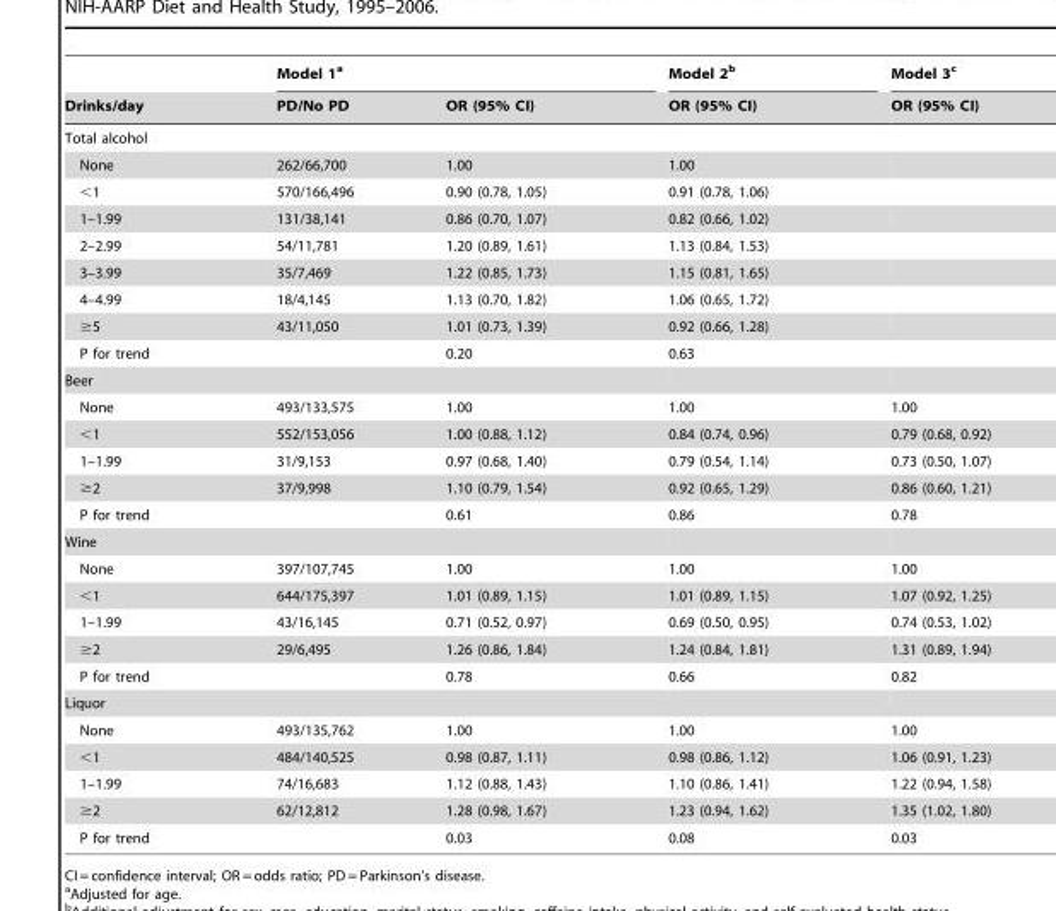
<table><thead><tr><td rowspan="2">Drinks/day</td><td colspan="2">Model 1<sup>a</sup></td><td rowspan="2">Model 2<sup>b</sup> OR (95% CI)</td><td rowspan="2">Model 3<sup>c</sup> OR (95% CI)</td></tr><tr><td>PD/No PD</td><td>OR (95% CI)</td></tr></thead><tbody><tr><td colspan="5">Total alcohol</td></tr><tr><td>None</td><td>262/66,700</td><td>1.00</td><td>1.00</td><td></td></tr><tr><td>&lt;1</td><td>570/166,496</td><td>0.90 (0.78, 1.05)</td><td>0.91 (0.78, 1.06)</td><td></td></tr><tr><td>1–1.99</td><td>131/38,141</td><td>0.86 (0.70, 1.07)</td><td>0.82 (0.66, 1.02)</td><td></td></tr><tr><td>2–2.99</td><td>54/11,781</td><td>1.20 (0.89, 1.61)</td><td>1.13 (0.84, 1.53)</td><td></td></tr><tr><td>3–3.99</td><td>35/7,469</td><td>1.22 (0.85, 1.73)</td><td>1.15 (0.81, 1.65)</td><td></td></tr><tr><td>4–4.99</td><td>18/4,145</td><td>1.13 (0.70, 1.82)</td><td>1.06 (0.65, 1.72)</td><td></td></tr><tr><td>≥5</td><td>43/11,050</td><td>1.01 (0.73, 1.39)</td><td>0.92 (0.66, 1.28)</td><td></td></tr><tr><td>P for trend</td><td></td><td>0.20</td><td>0.63</td><td></td></tr><tr><td colspan="5">Beer</td></tr><tr><td>None</td><td>493/133,575</td><td>1.00</td><td>1.00</td><td>1.00</td></tr><tr><td>&lt;1</td><td>552/153,056</td><td>1.00 (0.88, 1.12)</td><td>0.84 (0.74, 0.96)</td><td>0.79 (0.68, 0.92)</td></tr><tr><td>1–1.99</td><td>31/9,153</td><td>0.97 (0.68, 1.40)</td><td>0.79 (0.54, 1.14)</td><td>0.73 (0.50, 1.07)</td></tr><tr><td>≥2</td><td>37/9,998</td><td>1.10 (0.79, 1.54)</td><td>0.92 (0.65, 1.29)</td><td>0.86 (0.60, 1.21)</td></tr><tr><td>P for trend</td><td></td><td>0.61</td><td>0.86</td><td>0.78</td></tr><tr><td colspan="5">Wine</td></tr><tr><td>None</td><td>397/107,745</td><td>1.00</td><td>1.00</td><td>1.00</td></tr><tr><td>&lt;1</td><td>644/175,397</td><td>1.01 (0.89, 1.15)</td><td>1.01 (0.89, 1.15)</td><td>1.07 (0.92, 1.25)</td></tr><tr><td>1–1.99</td><td>43/16,145</td><td>0.71 (0.52, 0.97)</td><td>0.69 (0.50, 0.95)</td><td>0.74 (0.53, 1.02)</td></tr><tr><td>≥2</td><td>29/6,495</td><td>1.26 (0.86, 1.84)</td><td>1.24 (0.84, 1.81)</td><td>1.31 (0.89, 1.94)</td></tr><tr><td>P for trend</td><td></td><td>0.78</td><td>0.66</td><td>0.82</td></tr><tr><td colspan="5">Liquor</td></tr><tr><td>None</td><td>493/135,762</td><td>1.00</td><td>1.00</td><td>1.00</td></tr><tr><td>&lt;1</td><td>484/140,525</td><td>0.98 (0.87, 1.11)</td><td>0.98 (0.86, 1.12)</td><td>1.06 (0.91, 1.23)</td></tr><tr><td>1–1.99</td><td>74/16,683</td><td>1.12 (0.88, 1.43)</td><td>1.10 (0.86, 1.41)</td><td>1.22 (0.94, 1.58)</td></tr><tr><td>≥2</td><td>62/12,812</td><td>1.28 (0.98, 1.67)</td><td>1.23 (0.94, 1.62)</td><td>1.35 (1.02, 1.80)</td></tr><tr><td>P for trend</td><td></td><td>0.03</td><td>0.08</td><td>0.03</td></tr></tbody></table>